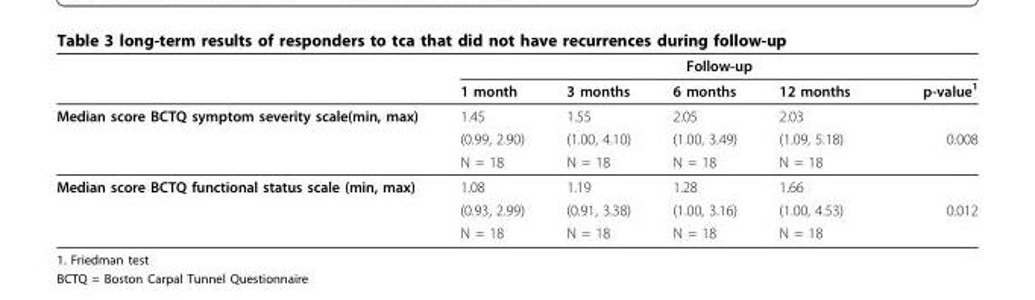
<table><thead><tr><td rowspan="2"></td><td colspan="5">Follow-up</td></tr><tr><td>1 month</td><td>3 months</td><td>6 months</td><td>12 months</td><td>p-value<sup>1</sup></td></tr></thead><tbody><tr><td rowspan="3">Median score BCTQ symptom severity scale(min, max)</td><td>1.45</td><td>1.55</td><td>2.05</td><td>2.03</td><td></td></tr><tr><td>(0.99, 2.90)</td><td>(1.00, 4.10)</td><td>(1.00, 3.49)</td><td>(1.09, 5.18)</td><td>0.008</td></tr><tr><td>N = 18</td><td>N = 18</td><td>N = 18</td><td>N = 18</td><td></td></tr><tr><td rowspan="3">Median score BCTQ functional status scale (min, max)</td><td>1.08</td><td>1.19</td><td>1.28</td><td>1.66</td><td></td></tr><tr><td>(0.93, 2.99)</td><td>(0.91, 3.38)</td><td>(1.00, 3.16)</td><td>(1.00, 4.53)</td><td>0.012</td></tr><tr><td>N = 18</td><td>N = 18</td><td>N = 18</td><td>N = 18</td><td></td></tr></tbody></table>